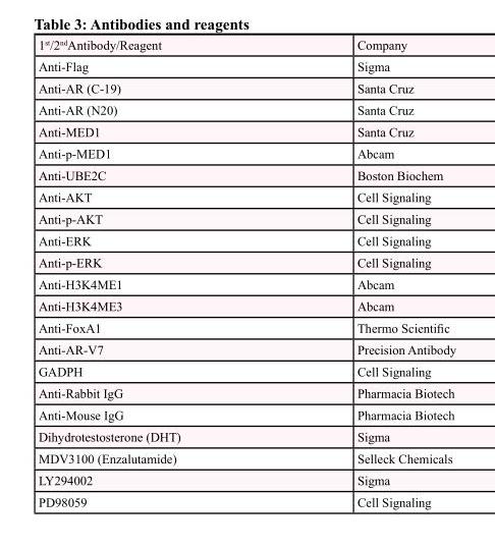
<table><tbody><tr><td>1<sup>st</sup>/2<sup>nd</sup>Antibody/Reagent</td><td>Company</td></tr><tr><td>Anti-Flag</td><td>Sigma</td></tr><tr><td>Anti-AR (C-19)</td><td>Santa Cruz</td></tr><tr><td>Anti-AR (N20)</td><td>Santa Cruz</td></tr><tr><td>Anti-MED1</td><td>Santa Cruz</td></tr><tr><td>Anti-p-MED1</td><td>Abcam</td></tr><tr><td>Anti-UBE2C</td><td>Boston Biochem</td></tr><tr><td>Anti-AKT</td><td>Cell Signaling</td></tr><tr><td>Anti-p-AKT</td><td>Cell Signaling</td></tr><tr><td>Anti-ERK</td><td>Cell Signaling</td></tr><tr><td>Anti-p-ERK</td><td>Cell Signaling</td></tr><tr><td>Anti-H3K4ME1</td><td>Abcam</td></tr><tr><td>Anti-H3K4ME3</td><td>Abcam</td></tr><tr><td>Anti-FoxA1</td><td>Thermo Scientific</td></tr><tr><td>Anti-AR-V7</td><td>Precision Antibody</td></tr><tr><td>GADPH</td><td>Cell Signaling</td></tr><tr><td>Anti-Rabbit IgG</td><td>Pharmacia Biotech</td></tr><tr><td>Anti-Mouse IgG</td><td>Pharmacia Biotech</td></tr><tr><td>Dihydrotestosterone (DHT)</td><td>Sigma</td></tr><tr><td>MDV3100 (Enzalutamide)</td><td>Selleck Chemicals</td></tr><tr><td>LY294002</td><td>Sigma</td></tr><tr><td>PD98059</td><td>Cell Signaling</td></tr></tbody></table>